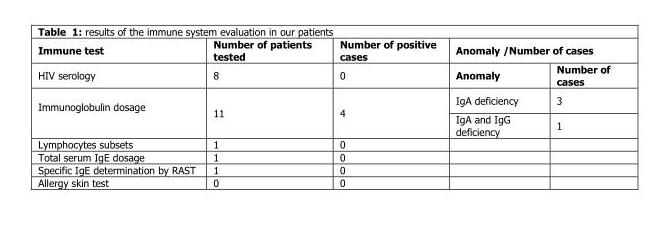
<table><thead><tr><td rowspan="2">Immune test HIV serology</td><td rowspan="2">Number of patients tested 8</td><td rowspan="2">Number of positive cases 0</td><td colspan="2">Anomaly /Number of cases</td></tr><tr><td>Anomaly</td><td>Number of cases</td></tr></thead><tbody><tr><td rowspan="2">Immunoglobulin dosage</td><td rowspan="2">11</td><td rowspan="2">4</td><td>IgA deficiency</td><td>3</td></tr><tr><td>IgA and IgG deficiency</td><td>1</td></tr><tr><td>Lymphocytes subsets</td><td>1</td><td>0</td><td></td><td></td></tr><tr><td>Total serum IgE dosage</td><td>1</td><td>0</td><td></td><td></td></tr><tr><td>Specific IgE determination by RAST</td><td>1</td><td>0</td><td></td><td></td></tr><tr><td>Allergy skin test</td><td>0</td><td>0</td><td></td><td></td></tr></tbody></table>